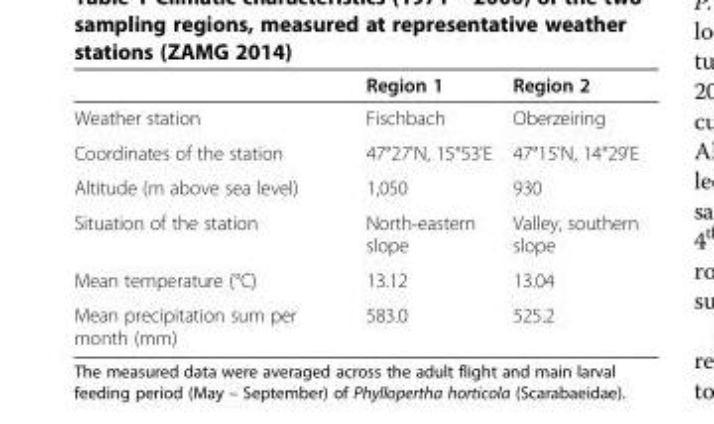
<table><thead><tr><td></td><td>Region 1</td><td>Region 2</td></tr></thead><tbody><tr><td>Weather station</td><td>Fischbach</td><td>Oberzeiring</td></tr><tr><td>Coordinates of the station</td><td>47°27&#x27;N, 15°53&#x27;E</td><td>47°15&#x27;N, 14°29&#x27;E</td></tr><tr><td>Altitude (m above sea level)</td><td>1,050</td><td>930</td></tr><tr><td>Situation of the station</td><td>North-eastern slope</td><td>Valley, southern slope</td></tr><tr><td>Mean temperature (°C)</td><td>13.12</td><td>13.04</td></tr><tr><td>Mean precipitation sum per month (mm)</td><td>583.0</td><td>525.2</td></tr></tbody></table>